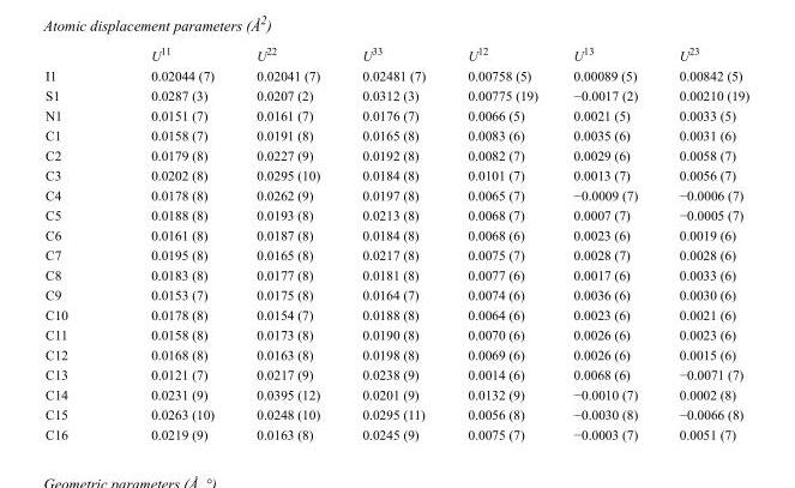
<table><thead><tr><td></td><td>U<sup>11</sup></td><td>U<sup>22</sup></td><td>U<sup>33</sup></td><td>U<sup>12</sup></td><td>U<sup>13</sup></td><td>U<sup>23</sup></td></tr></thead><tbody><tr><td>I1</td><td>0.02044 (7)</td><td>0.02041 (7)</td><td>0.02481 (7)</td><td>0.00758 (5)</td><td>0.00089 (5)</td><td>0.00842 (5)</td></tr><tr><td>S1</td><td>0.0287 (3)</td><td>0.0207 (2)</td><td>0.0312 (3)</td><td>0.00775 (19)</td><td>−0.0017 (2)</td><td>0.00210 (19)</td></tr><tr><td>N1</td><td>0.0151 (7)</td><td>0.0161 (7)</td><td>0.0176 (7)</td><td>0.0066 (5)</td><td>0.0021 (5)</td><td>0.0033 (5)</td></tr><tr><td>C1</td><td>0.0158 (7)</td><td>0.0191 (8)</td><td>0.0165 (8)</td><td>0.0083 (6)</td><td>0.0035 (6)</td><td>0.0031 (6)</td></tr><tr><td>C2</td><td>0.0179 (8)</td><td>0.0227 (9)</td><td>0.0192 (8)</td><td>0.0082 (7)</td><td>0.0029 (6)</td><td>0.0058 (7)</td></tr><tr><td>C3</td><td>0.0202 (8)</td><td>0.0295 (10)</td><td>0.0184 (8)</td><td>0.0101 (7)</td><td>0.0013 (7)</td><td>0.0056 (7)</td></tr><tr><td>C4</td><td>0.0178 (8)</td><td>0.0262 (9)</td><td>0.0197 (8)</td><td>0.0065 (7)</td><td>−0.0009 (7)</td><td>−0.0006 (7)</td></tr><tr><td>C5</td><td>0.0188 (8)</td><td>0.0193 (8)</td><td>0.0213 (8)</td><td>0.0068 (7)</td><td>0.0007 (7)</td><td>−0.0005 (7)</td></tr><tr><td>C6</td><td>0.0161 (8)</td><td>0.0187 (8)</td><td>0.0184 (8)</td><td>0.0068 (6)</td><td>0.0023 (6)</td><td>0.0019 (6)</td></tr><tr><td>C7</td><td>0.0195 (8)</td><td>0.0165 (8)</td><td>0.0217 (8)</td><td>0.0075 (7)</td><td>0.0028 (7)</td><td>0.0028 (6)</td></tr><tr><td>C8</td><td>0.0183 (8)</td><td>0.0177 (8)</td><td>0.0181 (8)</td><td>0.0077 (6)</td><td>0.0017 (6)</td><td>0.0033 (6)</td></tr><tr><td>C9</td><td>0.0153 (7)</td><td>0.0175 (8)</td><td>0.0164 (7)</td><td>0.0074 (6)</td><td>0.0036 (6)</td><td>0.0030 (6)</td></tr><tr><td>C10</td><td>0.0178 (8)</td><td>0.0154 (7)</td><td>0.0188 (8)</td><td>0.0064 (6)</td><td>0.0023 (6)</td><td>0.0021 (6)</td></tr><tr><td>C11</td><td>0.0158 (8)</td><td>0.0173 (8)</td><td>0.0190 (8)</td><td>0.0070 (6)</td><td>0.0026 (6)</td><td>0.0023 (6)</td></tr><tr><td>C12</td><td>0.0168 (8)</td><td>0.0163 (8)</td><td>0.0198 (8)</td><td>0.0069 (6)</td><td>0.0026 (6)</td><td>0.0015 (6)</td></tr><tr><td>C13</td><td>0.0121 (7)</td><td>0.0217 (9)</td><td>0.0238 (9)</td><td>0.0014 (6)</td><td>0.0068 (6)</td><td>−0.0071 (7)</td></tr><tr><td>C14</td><td>0.0231 (9)</td><td>0.0395 (12)</td><td>0.0201 (9)</td><td>0.0132 (9)</td><td>−0.0010 (7)</td><td>0.0002 (8)</td></tr><tr><td>C15</td><td>0.0263 (10)</td><td>0.0248 (10)</td><td>0.0295 (11)</td><td>0.0056 (8)</td><td>−0.0030 (8)</td><td>−0.0066 (8)</td></tr><tr><td>C16</td><td>0.0219 (9)</td><td>0.0163 (8)</td><td>0.0245 (9)</td><td>0.0075 (7)</td><td>−0.0003 (7)</td><td>0.0051 (7)</td></tr></tbody></table>